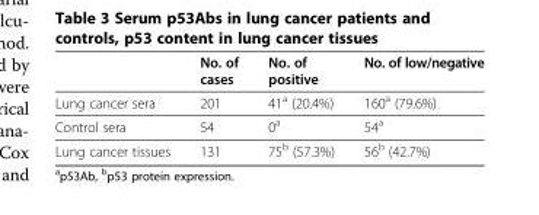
<table><thead><tr><td></td><td>No. of cases</td><td>No. of positive</td><td>No. of low/negative</td></tr></thead><tbody><tr><td>Lung cancer sera</td><td>201</td><td>41<sup>a</sup> (20.4%)</td><td>160<sup>a</sup> (79.6%)</td></tr><tr><td>Control sera</td><td>54</td><td>0<sup>a</sup></td><td>54<sup>a</sup></td></tr><tr><td>Lung cancer tissues</td><td>131</td><td>75<sup>b</sup> (57.3%)</td><td>56<sup>b</sup> (42.7%)</td></tr></tbody></table>